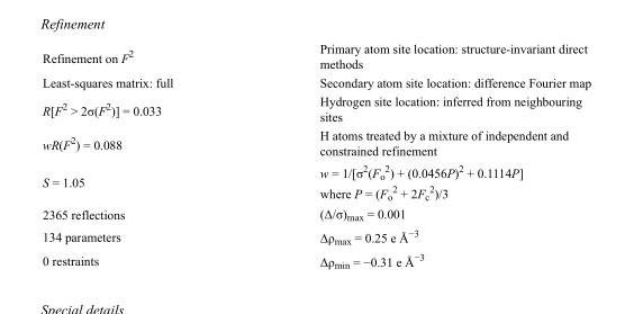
<table><tbody><tr><td>Refinement on F<sup>2</sup></td><td>Primary atom site location: structure-invariant direct methods</td></tr><tr><td>Least-squares matrix: full</td><td>Secondary atom site location: difference Fourier map</td></tr><tr><td>R[F<sup>2</sup> &gt; 2σ(F<sup>2</sup>)] = 0.033</td><td>Hydrogen site location: inferred from neighbouring sites</td></tr><tr><td>wR(F<sup>2</sup>) = 0.088</td><td>H atoms treated by a mixture of independent and constrained refinement</td></tr><tr><td>S = 1.05</td><td>w = 1/[σ<sup>2</sup>(F<sub>o</sub> <sup>2</sup>) + (0.0456P)<sup>2</sup> + 0.1114P] where P = (F<sub>o</sub> <sup>2</sup> + 2F<sub>c</sub> <sup>2</sup>)/3</td></tr><tr><td>2365 reflections</td><td>(Δ/σ)<sub>max</sub> = 0.001</td></tr><tr><td>134 parameters</td><td>Δρ<sub>max</sub> = 0.25 e Å<sup>−3</sup></td></tr><tr><td>0 restraints</td><td>Δρ<sub>min</sub> = −0.31 e Å<sup>−3</sup></td></tr></tbody></table>